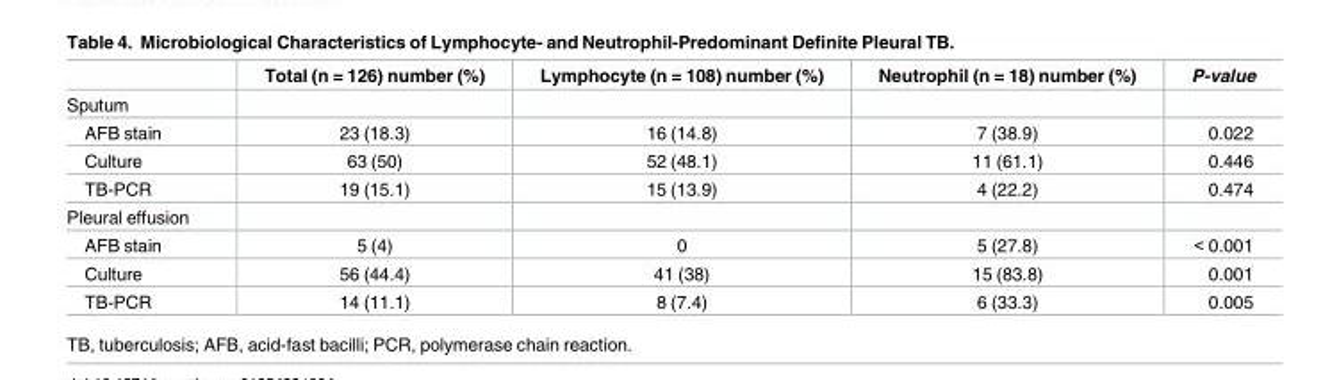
<table><thead><tr><td></td><td>Total (n = 126) number (%)</td><td>Lymphocyte (n = 108) number (%)</td><td>Neutrophil (n = 18) number (%)</td><td>P-value</td></tr></thead><tbody><tr><td colspan="5">Sputum</td></tr><tr><td>AFB stain</td><td>23 (18.3)</td><td>16 (14.8)</td><td>7 (38.9)</td><td>0.022</td></tr><tr><td>Culture</td><td>63 (50)</td><td>52 (48.1)</td><td>11 (61.1)</td><td>0.446</td></tr><tr><td>TB-PCR</td><td>19 (15.1)</td><td>15 (13.9)</td><td>4 (22.2)</td><td>0.474</td></tr><tr><td colspan="5">Pleural effusion</td></tr><tr><td>AFB stain</td><td>5 (4)</td><td>0</td><td>5 (27.8)</td><td>&lt; 0.001</td></tr><tr><td>Culture</td><td>56 (44.4)</td><td>41 (38)</td><td>15 (83.8)</td><td>0.001</td></tr><tr><td>TB-PCR</td><td>14 (11.1)</td><td>8 (7.4)</td><td>6 (33.3)</td><td>0.005</td></tr></tbody></table>